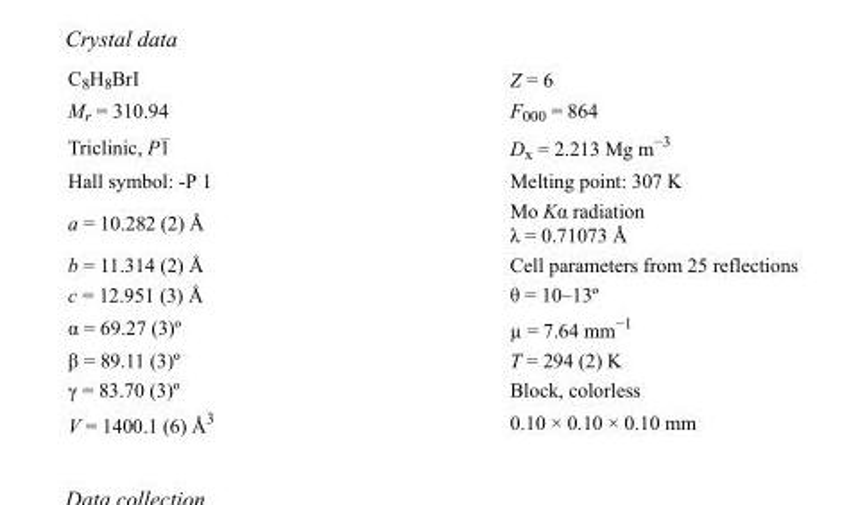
<table><tbody><tr><td>C<sub>8</sub>H<sub>8</sub>BrI</td><td>Z = 6</td></tr><tr><td>M<sub>r</sub> = 310.94</td><td>F<sub>000</sub> = 864</td></tr><tr><td>Triclinic, P1</td><td>D<sub>x</sub> = 2.213 Mg m<sup>−3</sup></td></tr><tr><td>Hall symbol: -P 1</td><td>Melting point: 307 K</td></tr><tr><td>a = 10.282 (2) Å</td><td>Mo Kα radiation λ = 0.71073 Å</td></tr><tr><td>b = 11.314 (2) Å</td><td>Cell parameters from 25 reflections</td></tr><tr><td>c = 12.951 (3) Å</td><td>θ = 10–13º</td></tr><tr><td>α = 69.27 (3)º</td><td>µ = 7.64 mm<sup>−1</sup></td></tr><tr><td>β = 89.11 (3)º</td><td>T = 294 (2) K</td></tr><tr><td>γ = 83.70 (3)º</td><td>Block, colorless</td></tr><tr><td>V = 1400.1 (6) Å<sup>3</sup></td><td>0.10 × 0.10 × 0.10 mm</td></tr></tbody></table>